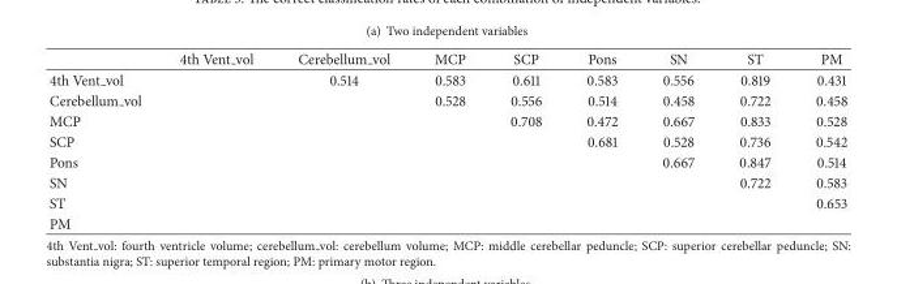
<table><thead><tr><td></td><td>4th Vent vol</td><td>Cerebellum vol</td><td>MCP</td><td>SCP</td><td>Pons</td><td>SN</td><td>ST</td><td>PM</td></tr></thead><tbody><tr><td>4th Vent vol</td><td></td><td>0.514</td><td>0.583</td><td>0.611</td><td>0.583</td><td>0.556</td><td>0.819</td><td>0.431</td></tr><tr><td>Cerebellum vol</td><td></td><td></td><td>0.528</td><td>0.556</td><td>0.514</td><td>0.458</td><td>0.722</td><td>0.458</td></tr><tr><td>MCP</td><td></td><td></td><td></td><td>0.708</td><td>0.472</td><td>0.667</td><td>0.833</td><td>0.528</td></tr><tr><td>SCP</td><td></td><td></td><td></td><td></td><td>0.681</td><td>0.528</td><td>0.736</td><td>0.542</td></tr><tr><td>Pons</td><td></td><td></td><td></td><td></td><td></td><td>0.667</td><td>0.847</td><td>0.514</td></tr><tr><td>SN</td><td></td><td></td><td></td><td></td><td></td><td></td><td>0.722</td><td>0.583</td></tr><tr><td>ST</td><td></td><td></td><td></td><td></td><td></td><td></td><td></td><td>0.653</td></tr><tr><td>PM</td><td></td><td></td><td></td><td></td><td></td><td></td><td></td><td></td></tr></tbody></table>